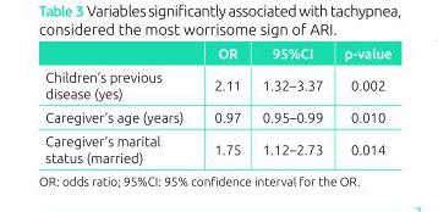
<table><thead><tr><td></td><td>OR</td><td>95%CI</td><td>p-value</td></tr></thead><tbody><tr><td>Children’s previous disease (yes)</td><td>2.11</td><td>1.32–3.37</td><td>0.002</td></tr><tr><td>Caregiver’s age (years)</td><td>0.97</td><td>0.95–0.99</td><td>0.010</td></tr><tr><td>Caregiver’s marital status (married)</td><td>1.75</td><td>1.12–2.73</td><td>0.014</td></tr></tbody></table>